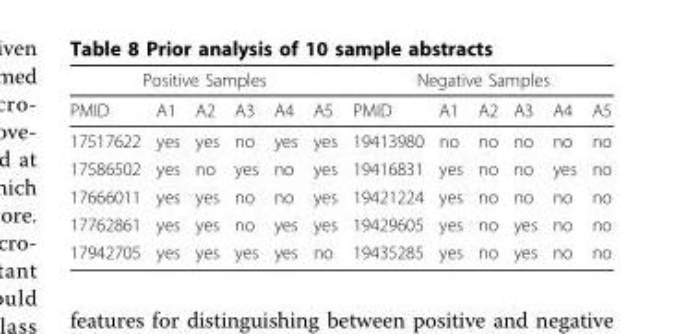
<table><thead><tr><td colspan="6">Positive Samples</td><td colspan="6">Negative Samples</td></tr><tr><td>PMID</td><td>A1</td><td>A2</td><td>A3</td><td>A4</td><td>A5</td><td>PMID</td><td>A1</td><td>A2</td><td>A3</td><td>A4</td><td>A5</td></tr></thead><tbody><tr><td>17517622</td><td>yes</td><td>yes</td><td>no</td><td>yes</td><td>yes</td><td>19413980</td><td>no</td><td>no</td><td>no</td><td>no</td><td>no</td></tr><tr><td>17586502</td><td>yes</td><td>no</td><td>yes</td><td>no</td><td>yes</td><td>19416831</td><td>yes</td><td>no</td><td>no</td><td>yes</td><td>no</td></tr><tr><td>17666011</td><td>yes</td><td>yes</td><td>no</td><td>no</td><td>yes</td><td>19421224</td><td>yes</td><td>no</td><td>no</td><td>no</td><td>no</td></tr><tr><td>17762861</td><td>yes</td><td>yes</td><td>no</td><td>yes</td><td>yes</td><td>19429605</td><td>yes</td><td>no</td><td>yes</td><td>no</td><td>no</td></tr><tr><td>17942705</td><td>yes</td><td>yes</td><td>yes</td><td>yes</td><td>no</td><td>19435285</td><td>yes</td><td>no</td><td>yes</td><td>no</td><td>no</td></tr></tbody></table>